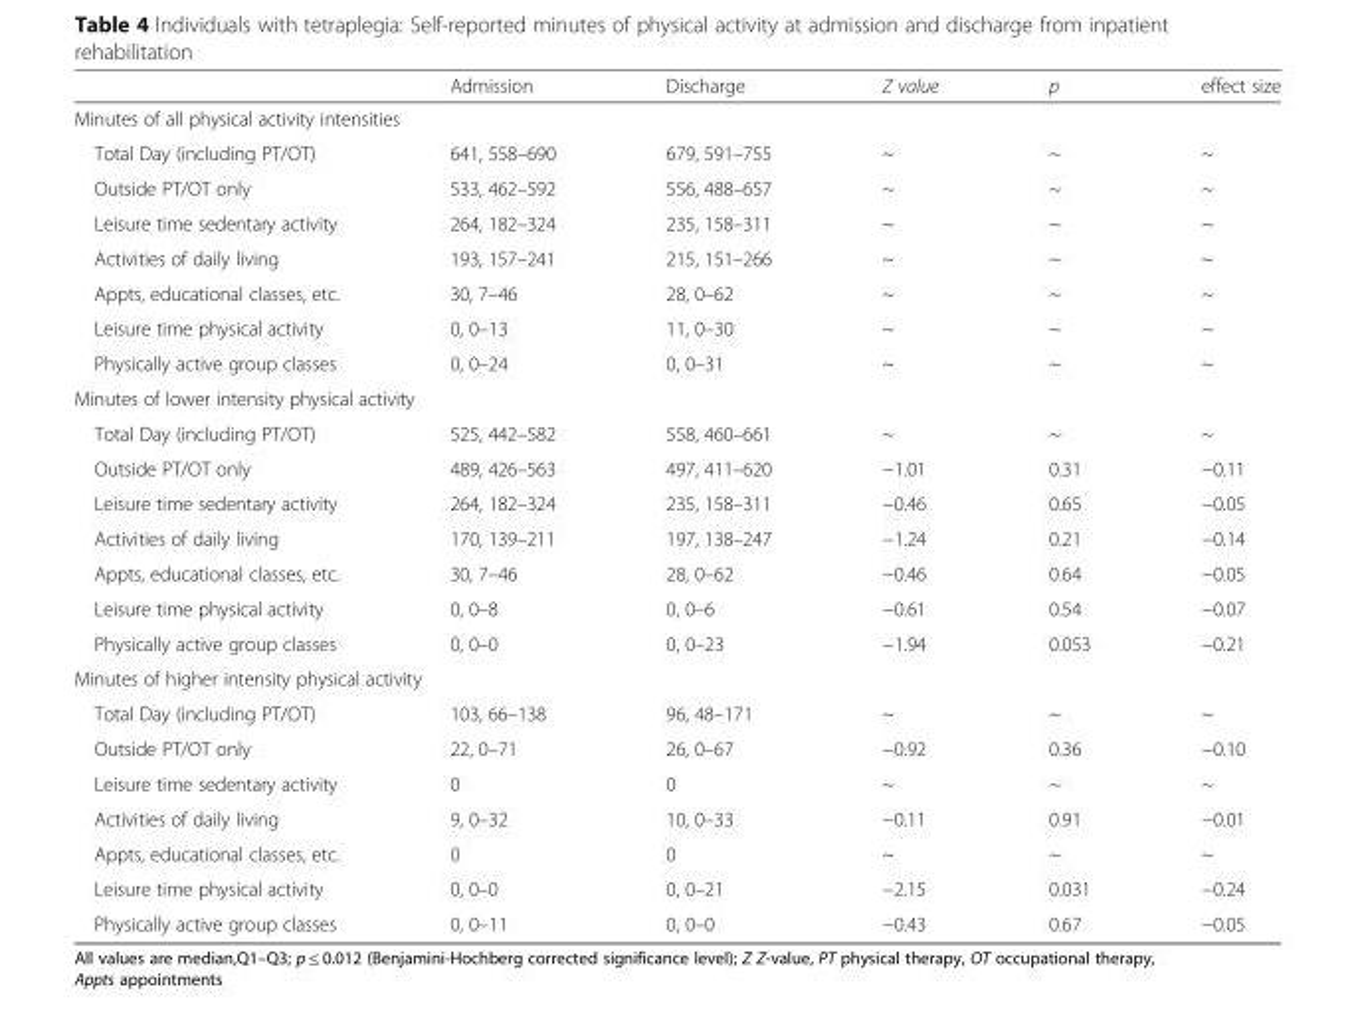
<table><thead><tr><td></td><td>Admission</td><td>Discharge</td><td>Z value</td><td>p</td><td>effect size</td></tr></thead><tbody><tr><td colspan="6">Minutes of all physical activity intensities</td></tr><tr><td>Total Day (including PT/OT)</td><td>641, 558–690</td><td>679, 591–755</td><td>~</td><td>~</td><td>~</td></tr><tr><td>Outside PT/OT only</td><td>533, 462–592</td><td>556, 488–657</td><td>~</td><td>~</td><td>~</td></tr><tr><td>Leisure time sedentary activity</td><td>264, 182–324</td><td>235, 158–311</td><td>~</td><td>~</td><td>~</td></tr><tr><td>Activities of daily living</td><td>193, 157–241</td><td>215, 151–266</td><td>~</td><td>~</td><td>~</td></tr><tr><td>Appts, educational classes, etc.</td><td>30, 7–46</td><td>28, 0–62</td><td>~</td><td>~</td><td>~</td></tr><tr><td>Leisure time physical activity</td><td>0, 0–13</td><td>11, 0–30</td><td>~</td><td>~</td><td>~</td></tr><tr><td>Physically active group classes</td><td>0, 0–24</td><td>0, 0–31</td><td>~</td><td>~</td><td>~</td></tr><tr><td colspan="6">Minutes of lower intensity physical activity</td></tr><tr><td>Total Day (including PT/OT)</td><td>525, 442–582</td><td>558, 460–661</td><td>~</td><td>~</td><td>~</td></tr><tr><td>Outside PT/OT only</td><td>489, 426–563</td><td>497, 411–620</td><td>−1.01</td><td>0.31</td><td>−0.11</td></tr><tr><td>Leisure time sedentary activity</td><td>264, 182–324</td><td>235, 158–311</td><td>−0.46</td><td>0.65</td><td>−0.05</td></tr><tr><td>Activities of daily living</td><td>170, 139–211</td><td>197, 138–247</td><td>−1.24</td><td>0.21</td><td>−0.14</td></tr><tr><td>Appts, educational classes, etc.</td><td>30, 7–46</td><td>28, 0–62</td><td>−0.46</td><td>0.64</td><td>−0.05</td></tr><tr><td>Leisure time physical activity</td><td>0, 0–8</td><td>0, 0–6</td><td>−0.61</td><td>0.54</td><td>−0.07</td></tr><tr><td>Physically active group classes</td><td>0, 0–0</td><td>0, 0–23</td><td>−1.94</td><td>0.053</td><td>−0.21</td></tr><tr><td colspan="6">Minutes of higher intensity physical activity</td></tr><tr><td>Total Day (including PT/OT)</td><td>103, 66–138</td><td>96, 48–171</td><td>~</td><td>~</td><td>~</td></tr><tr><td>Outside PT/OT only</td><td>22, 0–71</td><td>26, 0–67</td><td>−0.92</td><td>0.36</td><td>−0.10</td></tr><tr><td>Leisure time sedentary activity</td><td>0</td><td>0</td><td>~</td><td>~</td><td>~</td></tr><tr><td>Activities of daily living</td><td>9, 0–32</td><td>10, 0–33</td><td>−0.11</td><td>0.91</td><td>−0.01</td></tr><tr><td>Appts, educational classes, etc.</td><td>0</td><td>0</td><td>~</td><td>~</td><td>~</td></tr><tr><td>Leisure time physical activity</td><td>0, 0–0</td><td>0, 0–21</td><td>−2.15</td><td>0.031</td><td>−0.24</td></tr><tr><td>Physically active group classes</td><td>0, 0–11</td><td>0, 0–0</td><td>−0.43</td><td>0.67</td><td>−0.05</td></tr></tbody></table>